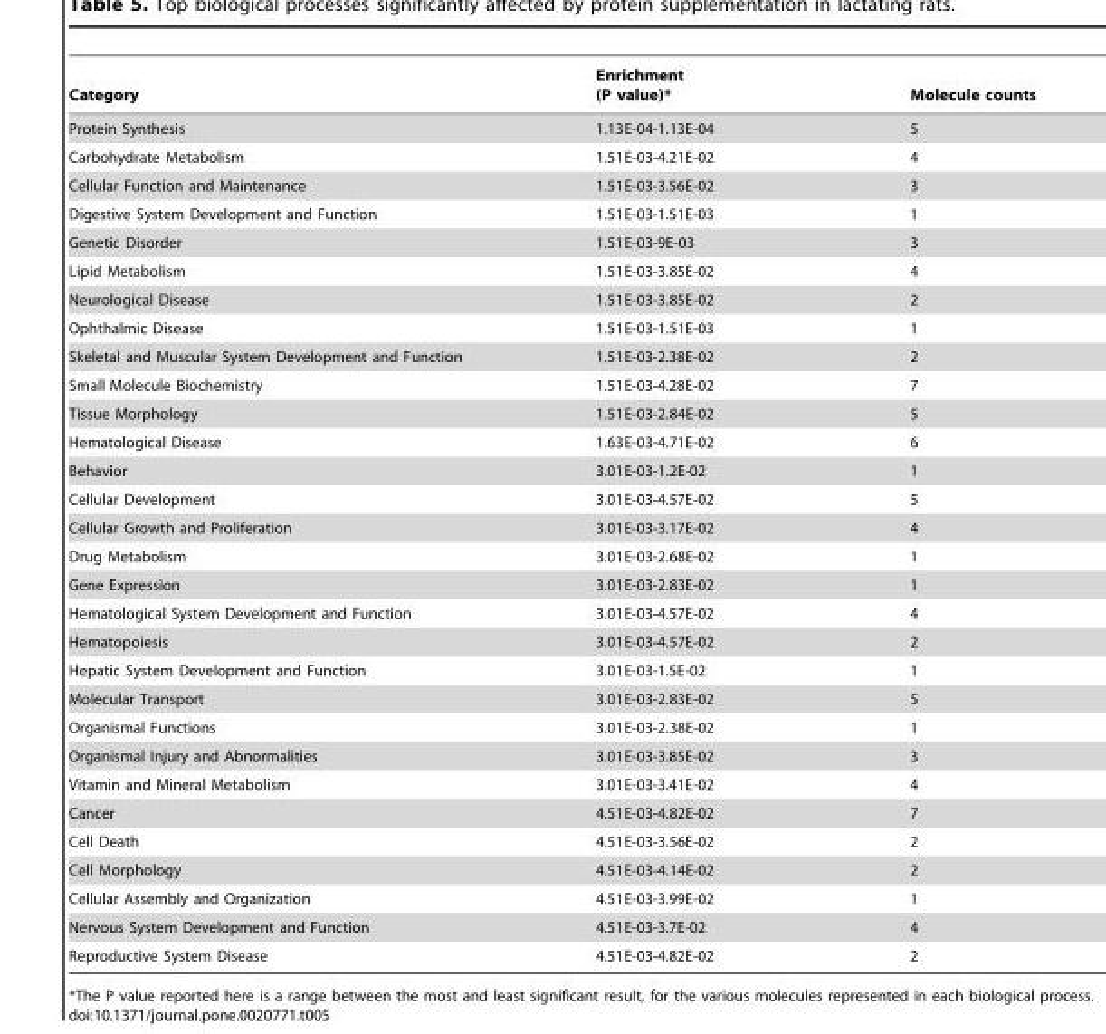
<table><thead><tr><td>Category</td><td>Enrichment (P value)*</td><td>Molecule counts</td></tr></thead><tbody><tr><td>Protein Synthesis</td><td>1.13E-04-1.13E-04</td><td>5</td></tr><tr><td>Carbohydrate Metabolism</td><td>1.51E-03-4.21E-02</td><td>4</td></tr><tr><td>Cellular Function and Maintenance</td><td>1.51E-03-3.56E-02</td><td>3</td></tr><tr><td>Digestive System Development and Function</td><td>1.51E-03-1.51E-03</td><td>1</td></tr><tr><td>Genetic Disorder</td><td>1.51E-03-9E-03</td><td>3</td></tr><tr><td>Lipid Metabolism</td><td>1.51E-03-3.85E-02</td><td>4</td></tr><tr><td>Neurological Disease</td><td>1.51E-03-3.85E-02</td><td>2</td></tr><tr><td>Ophthalmic Disease</td><td>1.51E-03-1.51E-03</td><td>1</td></tr><tr><td>Skeletal and Muscular System Development and Function</td><td>1.51E-03-2.38E-02</td><td>2</td></tr><tr><td>Small Molecule Biochemistry</td><td>1.51E-03-4.28E-02</td><td>7</td></tr><tr><td>Tissue Morphology</td><td>1.51E-03-2.84E-02</td><td>5</td></tr><tr><td>Hematological Disease</td><td>1.63E-03-4.71E-02</td><td>6</td></tr><tr><td>Behavior</td><td>3.01E-03-1.2E-02</td><td>1</td></tr><tr><td>Cellular Development</td><td>3.01E-03-4.57E-02</td><td>5</td></tr><tr><td>Cellular Growth and Proliferation</td><td>3.01E-03-3.17E-02</td><td>4</td></tr><tr><td>Drug Metabolism</td><td>3.01E-03-2.68E-02</td><td>1</td></tr><tr><td>Gene Expression</td><td>3.01E-03-2.83E-02</td><td>1</td></tr><tr><td>Hematological System Development and Function</td><td>3.01E-03-4.57E-02</td><td>4</td></tr><tr><td>Hematopoiesis</td><td>3.01E-03-4.57E-02</td><td>2</td></tr><tr><td>Hepatic System Development and Function</td><td>3.01E-03-1.5E-02</td><td>1</td></tr><tr><td>Molecular Transport</td><td>3.01E-03-2.83E-02</td><td>5</td></tr><tr><td>Organismal Functions</td><td>3.01E-03-2.38E-02</td><td>1</td></tr><tr><td>Organismal Injury and Abnormalities</td><td>3.01E-03-3.85E-02</td><td>3</td></tr><tr><td>Vitamin and Mineral Metabolism</td><td>3.01E-03-3.41E-02</td><td>4</td></tr><tr><td>Cancer</td><td>4.51E-03-4.82E-02</td><td>7</td></tr><tr><td>Cell Death</td><td>4.51E-03-3.56E-02</td><td>2</td></tr><tr><td>Cell Morphology</td><td>4.51E-03-4.14E-02</td><td>2</td></tr><tr><td>Cellular Assembly and Organization</td><td>4.51E-03-3.99E-02</td><td>1</td></tr><tr><td>Nervous System Development and Function</td><td>4.51E-03-3.7E-02</td><td>4</td></tr><tr><td>Reproductive System Disease</td><td>4.51E-03-4.82E-02</td><td>2</td></tr></tbody></table>